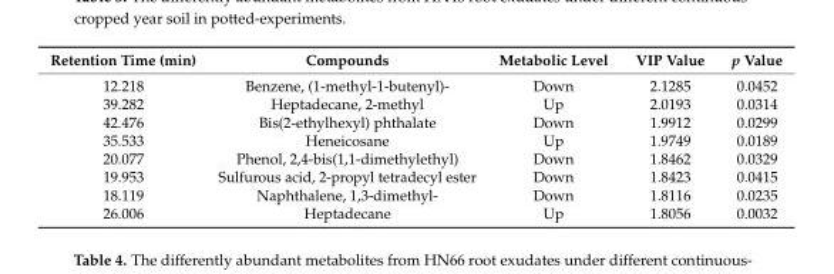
<table><thead><tr><td>Retention Time (min)</td><td>Compounds</td><td>Metabolic Level</td><td>VIP Value</td><td>p Value</td></tr></thead><tbody><tr><td>12.218</td><td>Benzene, (1-methyl-1-butenyl)-</td><td>Down</td><td>2.1285</td><td>0.0452</td></tr><tr><td>39.282</td><td>Heptadecane, 2-methyl</td><td>Up</td><td>2.0193</td><td>0.0314</td></tr><tr><td>42.476</td><td>Bis(2-ethylhexyl) phthalate</td><td>Down</td><td>1.9912</td><td>0.0299</td></tr><tr><td>35.533</td><td>Heneicosane</td><td>Up</td><td>1.9749</td><td>0.0189</td></tr><tr><td>20.077</td><td>Phenol, 2,4-bis(1,1-dimethylethyl)</td><td>Down</td><td>1.8462</td><td>0.0329</td></tr><tr><td>19.953</td><td>Sulfurous acid, 2-propyl tetradecyl ester</td><td>Down</td><td>1.8423</td><td>0.0415</td></tr><tr><td>18.119</td><td>Naphthalene, 1,3-dimethyl-</td><td>Down</td><td>1.8116</td><td>0.0235</td></tr><tr><td>26.006</td><td>Heptadecane</td><td>Up</td><td>1.8056</td><td>0.0032</td></tr></tbody></table>